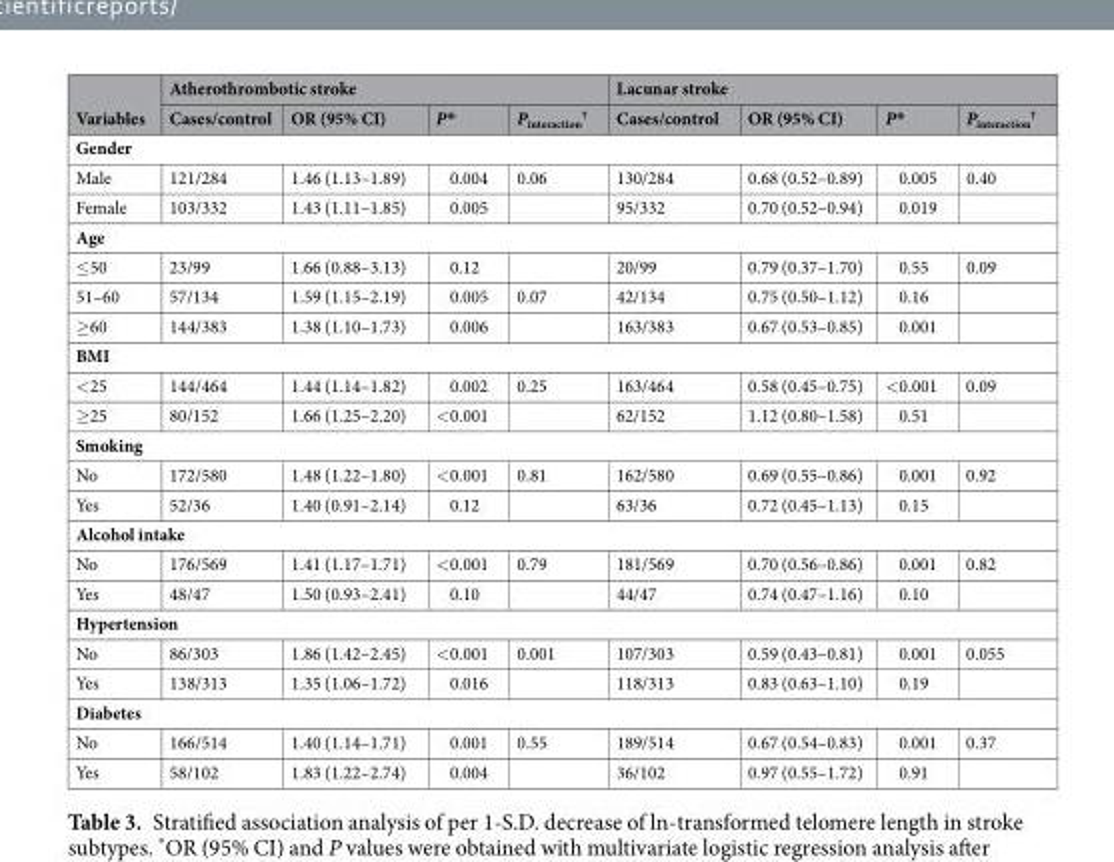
<table><thead><tr><td rowspan="2">Variables</td><td colspan="4">Atherothrombotic stroke</td><td colspan="4">Lacunar stroke</td></tr><tr><td>Cases/control</td><td>OR (95% CI)</td><td>P*</td><td>P<sub>interaction</sub> <sup>†</sup></td><td>Cases/control</td><td>OR (95% CI)</td><td>P*</td><td>P<sub>interaction</sub> <sup>†</sup></td></tr></thead><tbody><tr><td colspan="9">Gender</td></tr><tr><td>Male</td><td>121/284</td><td>1.46 (1.13–1.89)</td><td>0.004</td><td>0.06</td><td>130/284</td><td>0.68 (0.52–0.89)</td><td>0.005</td><td>0.40</td></tr><tr><td>Female</td><td>103/332</td><td>1.43 (1.11–1.85)</td><td>0.005</td><td></td><td>95/332</td><td>0.70 (0.52–0.94)</td><td>0.019</td><td></td></tr><tr><td colspan="9">Age</td></tr><tr><td>≤50</td><td>23/99</td><td>1.66 (0.88–3.13)</td><td>0.12</td><td></td><td>20/99</td><td>0.79 (0.37–1.70)</td><td>0.55</td><td>0.09</td></tr><tr><td>51–60</td><td>57/134</td><td>1.59 (1.15–2.19)</td><td>0.005</td><td>0.07</td><td>42/134</td><td>0.75 (0.50–1.12)</td><td>0.16</td><td></td></tr><tr><td>≥60</td><td>144/383</td><td>1.38 (1.10–1.73)</td><td>0.006</td><td></td><td>163/383</td><td>0.67 (0.53–0.85)</td><td>0.001</td><td></td></tr><tr><td colspan="9">BMI</td></tr><tr><td>&lt;25</td><td>144/464</td><td>1.44 (1.14–1.82)</td><td>0.002</td><td>0.25</td><td>163/464</td><td>0.58 (0.45–0.75)</td><td>&lt;0.001</td><td>0.09</td></tr><tr><td>≥25</td><td>80/152</td><td>1.66 (1.25–2.20)</td><td>&lt;0.001</td><td></td><td>62/152</td><td>1.12 (0.80–1.58)</td><td>0.51</td><td></td></tr><tr><td colspan="9">Smoking</td></tr><tr><td>No</td><td>172/580</td><td>1.48 (1.22–1.80)</td><td>&lt;0.001</td><td>0.81</td><td>162/580</td><td>0.69 (0.55–0.86)</td><td>0.001</td><td>0.92</td></tr><tr><td>Yes</td><td>52/36</td><td>1.40 (0.91–2.14)</td><td>0.12</td><td></td><td>63/36</td><td>0.72 (0.45–1.13)</td><td>0.15</td><td></td></tr><tr><td colspan="9">Alcohol intake</td></tr><tr><td>No</td><td>176/569</td><td>1.41 (1.17–1.71)</td><td>&lt;0.001</td><td>0.79</td><td>181/569</td><td>0.70 (0.56–0.86)</td><td>0.001</td><td>0.82</td></tr><tr><td>Yes</td><td>48/47</td><td>1.50 (0.93–2.41)</td><td>0.10</td><td></td><td>44/47</td><td>0.74 (0.47–1.16)</td><td>0.10</td><td></td></tr><tr><td colspan="9">Hypertension</td></tr><tr><td>No</td><td>86/303</td><td>1.86 (1.42–2.45)</td><td>&lt;0.001</td><td>0.001</td><td>107/303</td><td>0.59 (0.43–0.81)</td><td>0.001</td><td>0.055</td></tr><tr><td>Yes</td><td>138/313</td><td>1.35 (1.06–1.72)</td><td>0.016</td><td></td><td>118/313</td><td>0.83 (0.63–1.10)</td><td>0.19</td><td></td></tr><tr><td colspan="9">Diabetes</td></tr><tr><td>No</td><td>166/514</td><td>1.40 (1.14–1.71)</td><td>0.001</td><td>0.55</td><td>189/514</td><td>0.67 (0.54–0.83)</td><td>0.001</td><td>0.37</td></tr><tr><td>Yes</td><td>58/102</td><td>1.83 (1.22–2.74)</td><td>0.004</td><td></td><td>36/102</td><td>0.97 (0.55–1.72)</td><td>0.91</td><td></td></tr></tbody></table>